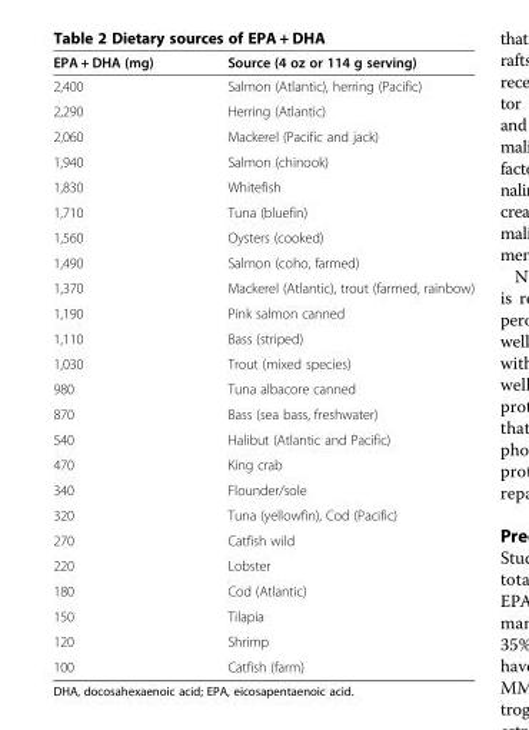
<table><thead><tr><td>EPA + DHA (mg)</td><td>Source (4 oz or 114 g serving)</td></tr></thead><tbody><tr><td>2,400</td><td>Salmon (Atlantic), herring (Pacific)</td></tr><tr><td>2,290</td><td>Herring (Atlantic)</td></tr><tr><td>2,060</td><td>Mackerel (Pacific and jack)</td></tr><tr><td>1,940</td><td>Salmon (chinook)</td></tr><tr><td>1,830</td><td>Whitefish</td></tr><tr><td>1,710</td><td>Tuna (bluefin)</td></tr><tr><td>1,560</td><td>Oysters (cooked)</td></tr><tr><td>1,490</td><td>Salmon (coho, farmed)</td></tr><tr><td>1,370</td><td>Mackerel (Atlantic), trout (farmed, rainbow)</td></tr><tr><td>1,190</td><td>Pink salmon canned</td></tr><tr><td>1,110</td><td>Bass (striped)</td></tr><tr><td>1,030</td><td>Trout (mixed species)</td></tr><tr><td>980</td><td>Tuna albacore canned</td></tr><tr><td>870</td><td>Bass (sea bass, freshwater)</td></tr><tr><td>540</td><td>Halibut (Atlantic and Pacific)</td></tr><tr><td>470</td><td>King crab</td></tr><tr><td>340</td><td>Flounder/sole</td></tr><tr><td>320</td><td>Tuna (yellowfin), Cod (Pacific)</td></tr><tr><td>270</td><td>Catfish wild</td></tr><tr><td>220</td><td>Lobster</td></tr><tr><td>180</td><td>Cod (Atlantic)</td></tr><tr><td>150</td><td>Tilapia</td></tr><tr><td>120</td><td>Shrimp</td></tr><tr><td>100</td><td>Catfish (farm)</td></tr></tbody></table>